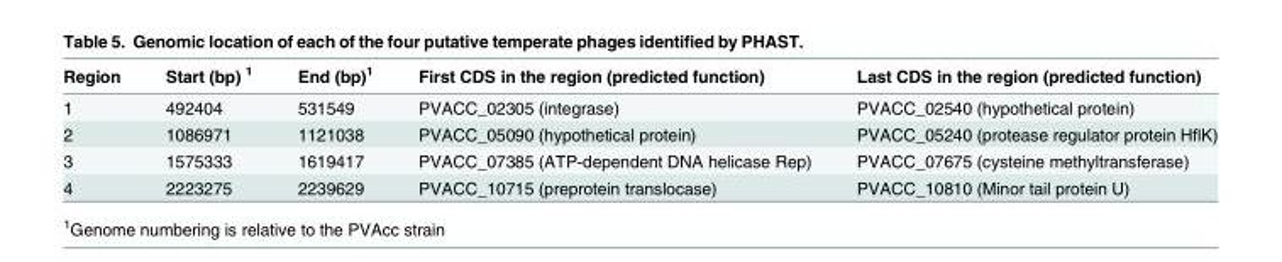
<table><thead><tr><td>Region</td><td>Start (bp) <sup>1</sup></td><td>End (bp)<sup>1</sup></td><td>First CDS in the region (predicted function)</td><td>Last CDS in the region (predicted function)</td></tr></thead><tbody><tr><td>1</td><td>492404</td><td>531549</td><td>PVACC_02305 (integrase)</td><td>PVACC_02540 (hypothetical protein)</td></tr><tr><td>2</td><td>1086971</td><td>1121038</td><td>PVACC_05090 (hypothetical protein)</td><td>PVACC_05240 (protease regulator protein HflK)</td></tr><tr><td>3</td><td>1575333</td><td>1619417</td><td>PVACC_07385 (ATP-dependent DNA helicase Rep)</td><td>PVACC_07675 (cysteine methyltransferase)</td></tr><tr><td>4</td><td>2223275</td><td>2239629</td><td>PVACC_10715 (preprotein translocase)</td><td>PVACC_10810 (Minor tail protein U)</td></tr></tbody></table>